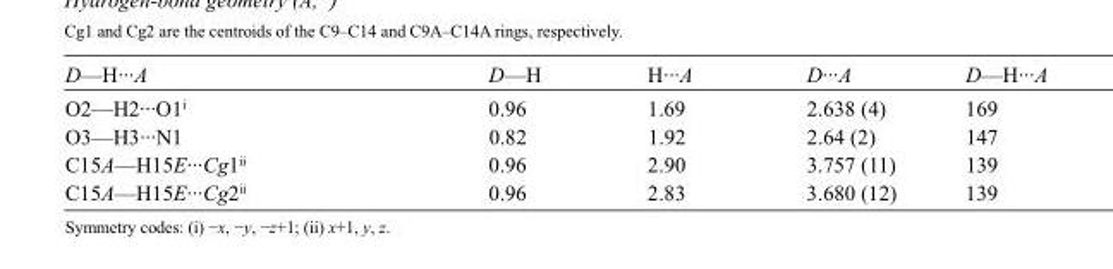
<table><tbody><tr><td>D—H···A</td><td>D—H</td><td>H···A</td><td>D···A</td><td>D—H···A</td></tr><tr><td>O2—H2···O1<sup>i</sup></td><td>0.96</td><td>1.69</td><td>2.638 (4)</td><td>169</td></tr><tr><td>O3—H3···N1</td><td>0.82</td><td>1.92</td><td>2.64 (2)</td><td>147</td></tr><tr><td>C15A—H15E···Cg1<sup>ii</sup></td><td>0.96</td><td>2.90</td><td>3.757 (11)</td><td>139</td></tr><tr><td>C15A—H15E···Cg2<sup>ii</sup></td><td>0.96</td><td>2.83</td><td>3.680 (12)</td><td>139</td></tr></tbody></table>